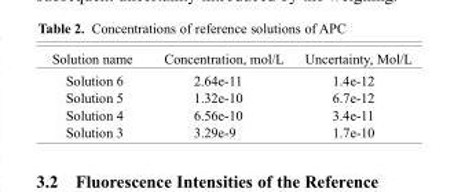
<table><thead><tr><td>Solution name</td><td>Concentration, mol/L</td><td>Uncertainty, Mol/L</td></tr></thead><tbody><tr><td>Solution 6</td><td>2.64e-11</td><td>1.4e-12</td></tr><tr><td>Solution 5</td><td>1.32e-10</td><td>6.7e-12</td></tr><tr><td>Solution 4</td><td>6.56e-10</td><td>3.4e-11</td></tr><tr><td>Solution 3</td><td>3.29e-9</td><td>1.7e-10</td></tr></tbody></table>